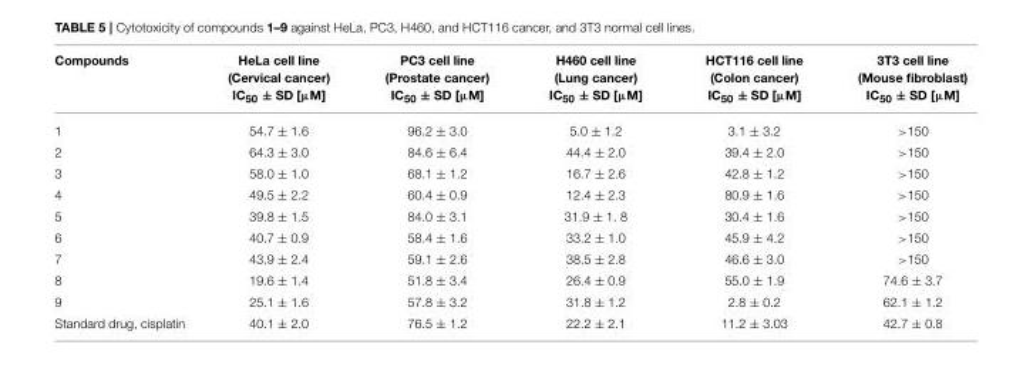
<table><thead><tr><td>Compounds</td><td>HeLa cell line (Cervical cancer) IC<sub>50</sub> ± SD [µM]</td><td>PC3 cell line (Prostate cancer) IC<sub>50</sub> ± SD [µM]</td><td>H460 cell line (Lung cancer) IC<sub>50</sub> ± SD [µM]</td><td>HCT116 cell line (Colon cancer) IC<sub>50</sub> ± SD [µM]</td><td>3T3 cell line (Mouse fibroblast) IC<sub>50</sub> ± SD [µM]</td></tr></thead><tbody><tr><td>1</td><td>54.7 ± 1.6</td><td>96.2 ± 3.0</td><td>5.0 ± 1.2</td><td>3.1 ± 3.2</td><td>&gt;150</td></tr><tr><td>2</td><td>64.3 ± 3.0</td><td>84.6 ± 6.4</td><td>44.4 ± 2.0</td><td>39.4 ± 2.0</td><td>&gt;150</td></tr><tr><td>3</td><td>58.0 ± 1.0</td><td>68.1 ± 1.2</td><td>16.7 ± 2.6</td><td>42.8 ± 1.2</td><td>&gt;150</td></tr><tr><td>4</td><td>49.5 ± 2.2</td><td>60.4 ± 0.9</td><td>12.4 ± 2.3</td><td>80.9 ± 1.6</td><td>&gt;150</td></tr><tr><td>5</td><td>39.8 ± 1.5</td><td>84.0 ± 3.1</td><td>31.9 ± 1. 8</td><td>30.4 ± 1.6</td><td>&gt;150</td></tr><tr><td>6</td><td>40.7 ± 0.9</td><td>58.4 ± 1.6</td><td>33.2 ± 1.0</td><td>45.9 ± 4.2</td><td>&gt;150</td></tr><tr><td>7</td><td>43.9 ± 2.4</td><td>59.1 ± 2.6</td><td>38.5 ± 2.8</td><td>46.6 ± 3.0</td><td>&gt;150</td></tr><tr><td>8</td><td>19.6 ± 1.4</td><td>51.8 ± 3.4</td><td>26.4 ± 0.9</td><td>55.0 ± 1.9</td><td>74.6 ± 3.7</td></tr><tr><td>9</td><td>25.1 ± 1.6</td><td>57.8 ± 3.2</td><td>31.8 ± 1.2</td><td>2.8 ± 0.2</td><td>62.1 ± 1.2</td></tr><tr><td>Standard drug, cisplatin</td><td>40.1 ± 2.0</td><td>76.5 ± 1.2</td><td>22.2 ± 2.1</td><td>11.2 ± 3.03</td><td>42.7 ± 0.8</td></tr></tbody></table>